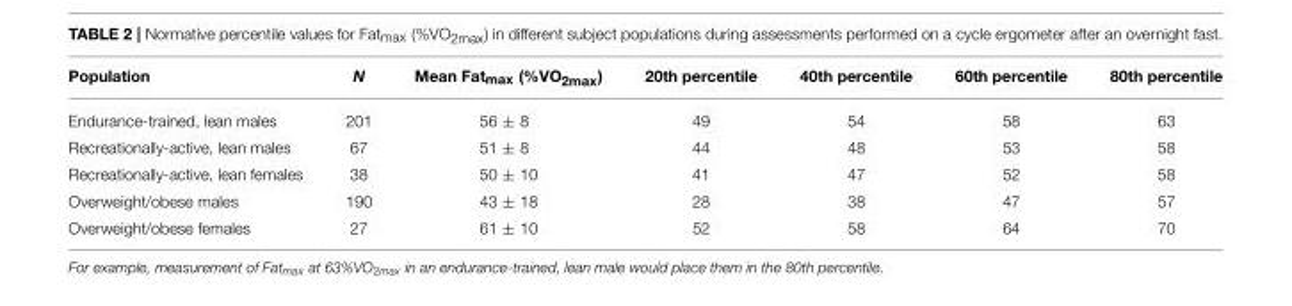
<table><thead><tr><td>Population</td><td>N</td><td>Mean Fat<sub>max</sub> (%VO<sub>2max</sub>)</td><td>20th percentile</td><td>40th percentile</td><td>60th percentile</td><td>80th percentile</td></tr></thead><tbody><tr><td>Endurance-trained, lean males</td><td>201</td><td>56 ± 8</td><td>49</td><td>54</td><td>58</td><td>63</td></tr><tr><td>Recreationally-active, lean males</td><td>67</td><td>51 ± 8</td><td>44</td><td>48</td><td>53</td><td>58</td></tr><tr><td>Recreationally-active, lean females</td><td>38</td><td>50 ± 10</td><td>41</td><td>47</td><td>52</td><td>58</td></tr><tr><td>Overweight/obese males</td><td>190</td><td>43 ± 18</td><td>28</td><td>38</td><td>47</td><td>57</td></tr><tr><td>Overweight/obese females</td><td>27</td><td>61 ± 10</td><td>52</td><td>58</td><td>64</td><td>70</td></tr></tbody></table>